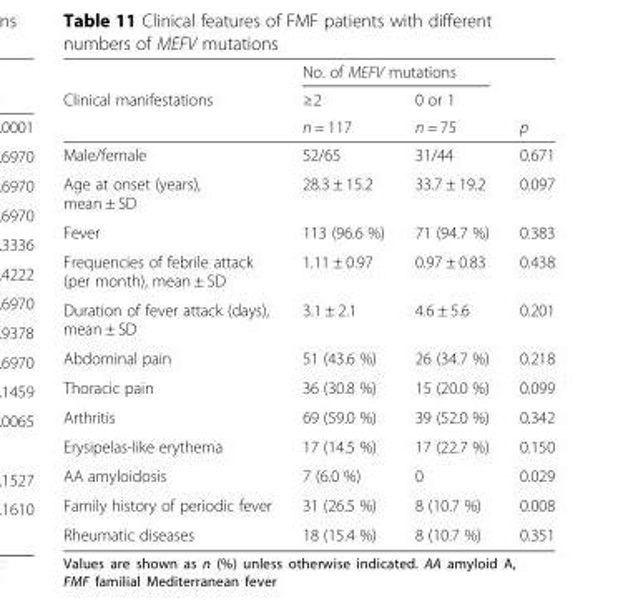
<table><thead><tr><td rowspan="3">Clinical manifestations</td><td colspan="2">No. of MEFV mutations</td><td rowspan="3">p</td></tr><tr><td rowspan="2">≥2 n = 117</td><td rowspan="2">0 or 1 n = 75</td></tr><tr></tr></thead><tbody><tr><td>Male/female</td><td>52/65</td><td>31/44</td><td>0.671</td></tr><tr><td>Age at onset (years), mean ± SD</td><td>28.3 ± 15.2</td><td>33.7 ± 19.2</td><td>0.097</td></tr><tr><td>Fever</td><td>113 (96.6 %)</td><td>71 (94.7 %)</td><td>0.383</td></tr><tr><td>Frequencies of febrile attack (per month), mean ± SD</td><td>1.11 ± 0.97</td><td>0.97 ± 0.83</td><td>0.438</td></tr><tr><td>Duration of fever attack (days), mean ± SD</td><td>3.1 ± 2.1</td><td>4.6 ± 5.6</td><td>0.201</td></tr><tr><td>Abdominal pain</td><td>51 (43.6 %)</td><td>26 (34.7 %)</td><td>0.218</td></tr><tr><td>Thoracic pain</td><td>36 (30.8 %)</td><td>15 (20.0 %)</td><td>0.099</td></tr><tr><td>Arthritis</td><td>69 (59.0 %)</td><td>39 (52.0 %)</td><td>0.342</td></tr><tr><td>Erysipelas-like erythema</td><td>17 (14.5 %)</td><td>17 (22.7 %)</td><td>0.150</td></tr><tr><td>AA amyloidosis</td><td>7 (6.0 %)</td><td>0</td><td>0.029</td></tr><tr><td>Family history of periodic fever</td><td>31 (26.5 %)</td><td>8 (10.7 %)</td><td>0.008</td></tr><tr><td>Rheumatic diseases</td><td>18 (15.4 %)</td><td>8 (10.7 %)</td><td>0.351</td></tr></tbody></table>